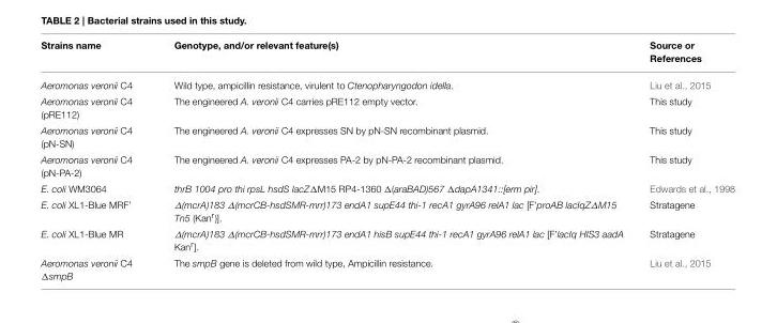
<table><thead><tr><td>Strains name</td><td>Genotype, and/or relevant feature(s)</td><td>Source or References</td></tr></thead><tbody><tr><td>Aeromonas veronii C4</td><td>Wild type, ampicillin resistance, virulent to Ctenopharyngodon idella.</td><td>Liu et al., 2015</td></tr><tr><td>Aeromonas veronii C4 (pRE112)</td><td>The engineered A. veronii C4 carries pRE112 empty vector.</td><td>This study</td></tr><tr><td>Aeromonas veronii C4 (pN-SN)</td><td>The engineered A. veronii C4 expresses SN by pN-SN recombinant plasmid.</td><td>This study</td></tr><tr><td>Aeromonas veronii C4 (pN-PA-2)</td><td>The engineered A. veronii C4 expresses PA-2 by pN-PA-2 recombinant plasmid.</td><td>This study</td></tr><tr><td>E. coli WM3064</td><td>thrB 1004 pro thi rpsL hsdS lacZΔM15 RP4-1360 Δ(araBAD)567 ΔdapA1341::[erm pir].</td><td>Edwards et al., 1998</td></tr><tr><td>E. coli XL1-Blue MRF’</td><td>∆(mcrA)183 ∆(mcrCB-hsdSMR-mrr)173 endA1 supE44 thi-1 recA1 gyrA96 relA1 lac [F’proAB lacIqZ∆M15 Tn5 (Kanr)].</td><td>Stratagene</td></tr><tr><td>E. coli XL1-Blue MR</td><td>∆(mcrA)183 ∆(mcrCB-hsdSMR-mrr)173 endA1 hisB supE44 thi-1 recA1 gyrA96 relA1 lac [F’lacIq HIS3 aadA Kanr].</td><td>Stratagene</td></tr><tr><td>Aeromonas veronii C4 ΔsmpB</td><td>The smpB gene is deleted from wild type, Ampicillin resistance.</td><td>Liu et al., 2015</td></tr></tbody></table>